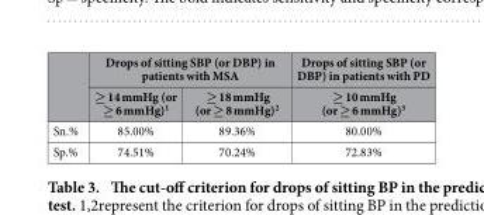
<table><thead><tr><td rowspan="2"></td><td colspan="2">Drops of sitting SBP (or DBP) in patients with MSA</td><td rowspan="2">Drops of sitting SBP (or DBP) in patients with PD ≥ 10 mmHg (or ≥ 6 mmHg)<sup>3</sup></td></tr><tr><td>≥ 14 mmHg (or ≥ 6 mmHg)<sup>1</sup></td><td>≥ 18 mmHg (or ≥ 8 mmHg)<sup>2</sup></td></tr></thead><tbody><tr><td>Sn.%</td><td>85.00%</td><td>89.36%</td><td>80.00%</td></tr><tr><td>Sp.%</td><td>74.51%</td><td>70.24%</td><td>72.83%</td></tr></tbody></table>